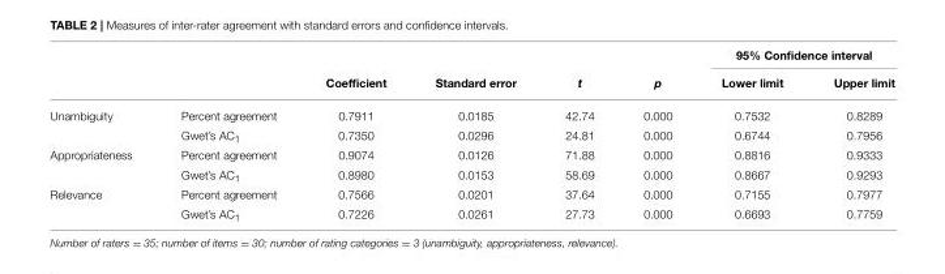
<table><thead><tr><td rowspan="2"></td><td rowspan="2"></td><td rowspan="2">Coefficient</td><td rowspan="2">Standard error</td><td rowspan="2">t</td><td rowspan="2">p</td><td colspan="2">95% Confidence interval</td></tr><tr><td>Lower limit</td><td>Upper limit</td></tr></thead><tbody><tr><td rowspan="2">Unambiguity</td><td>Percent agreement</td><td>0.7911</td><td>0.0185</td><td>42.74</td><td>0.000</td><td>0.7532</td><td>0.8289</td></tr><tr><td>Gwet’s AC<sub>1</sub></td><td>0.7350</td><td>0.0296</td><td>24.81</td><td>0.000</td><td>0.6744</td><td>0.7956</td></tr><tr><td rowspan="2">Appropriateness</td><td>Percent agreement</td><td>0.9074</td><td>0.0126</td><td>71.88</td><td>0.000</td><td>0.8816</td><td>0.9333</td></tr><tr><td>Gwet’s AC<sub>1</sub></td><td>0.8980</td><td>0.0153</td><td>58.69</td><td>0.000</td><td>0.8667</td><td>0.9293</td></tr><tr><td rowspan="2">Relevance</td><td>Percent agreement</td><td>0.7566</td><td>0.0201</td><td>37.64</td><td>0.000</td><td>0.7155</td><td>0.7977</td></tr><tr><td>Gwet’s AC<sub>1</sub></td><td>0.7226</td><td>0.0261</td><td>27.73</td><td>0.000</td><td>0.6693</td><td>0.7759</td></tr></tbody></table>